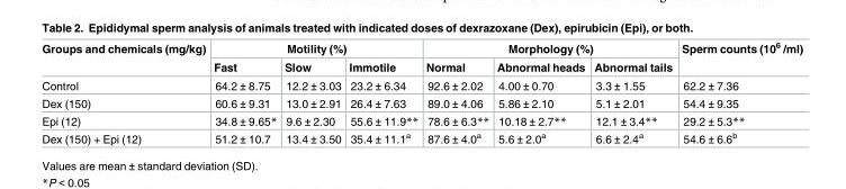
<table><thead><tr><td rowspan="2">Groups and chemicals (mg/kg)</td><td colspan="3">Motility (%)</td><td colspan="3">Morphology (%)</td><td rowspan="2">Sperm counts (10<sup>6</sup> /ml)</td></tr><tr><td>Fast</td><td>Slow</td><td>Immotile</td><td>Normal</td><td>Abnormal heads</td><td>Abnormal tails</td></tr></thead><tbody><tr><td>Control</td><td>64.2 ± 8.75</td><td>12.2 ± 3.03</td><td>23.2 ± 6.34</td><td>92.6 ± 2.02</td><td>4.00 ± 0.70</td><td>3.3 ± 1.55</td><td>62.2 ± 7.36</td></tr><tr><td>Dex (150)</td><td>60.6 ± 9.31</td><td>13.0 ± 2.91</td><td>26.4 ± 7.63</td><td>89.0 ± 4.06</td><td>5.86 ± 2.10</td><td>5.1 ± 2.01</td><td>54.4 ± 9.35</td></tr><tr><td>Epi (12)</td><td>34.8 ± 9.65*</td><td>9.6 ± 2.30</td><td>55.6 ± 11.9**</td><td>78.6 ± 6.3**</td><td>10.18 ± 2.7**</td><td>12.1 ± 3.4**</td><td>29.2 ± 5.3**</td></tr><tr><td>Dex (150) + Epi (12)</td><td>51.2 ± 10.7</td><td>13.4 ± 3.50</td><td>35.4 ± 11.1<sup>a</sup></td><td>87.6 ± 4.0<sup>a</sup></td><td>5.6 ± 2.0<sup>a</sup></td><td>6.6 ± 2.4<sup>a</sup></td><td>54.6 ± 6.6<sup>b</sup></td></tr></tbody></table>